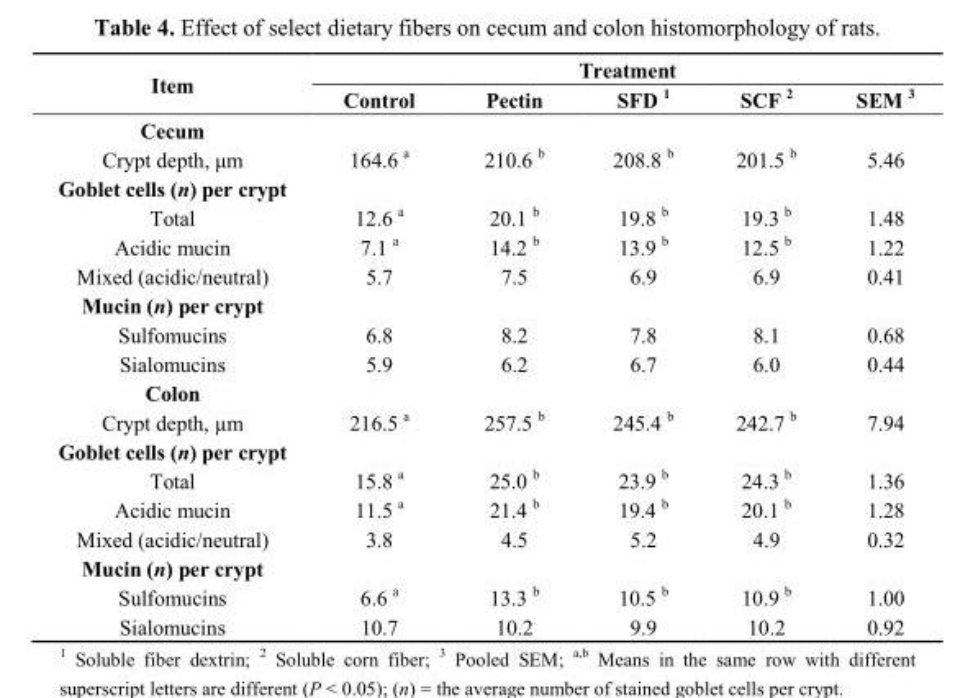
<table><thead><tr><td rowspan="2">Item</td><td colspan="5">Treatment</td></tr><tr><td>Control</td><td>Pectin</td><td>SFD <sup>1</sup></td><td>SCF <sup>2</sup></td><td>SEM <sup>3</sup></td></tr></thead><tbody><tr><td colspan="6">Cecum</td></tr><tr><td>Crypt depth, μm</td><td>164.6 <sup>a</sup></td><td>210.6 <sup>b</sup></td><td>208.8 <sup>b</sup></td><td>201.5 <sup>b</sup></td><td>5.46</td></tr><tr><td colspan="6">Goblet cells (n) per crypt</td></tr><tr><td>Total</td><td>12.6 <sup>a</sup></td><td>20.1 <sup>b</sup></td><td>19.8 <sup>b</sup></td><td>19.3 <sup>b</sup></td><td>1.48</td></tr><tr><td>Acidic mucin</td><td>7.1 <sup>a</sup></td><td>14.2 <sup>b</sup></td><td>13.9 <sup>b</sup></td><td>12.5 <sup>b</sup></td><td>1.22</td></tr><tr><td>Mixed (acidic/neutral)</td><td>5.7</td><td>7.5</td><td>6.9</td><td>6.9</td><td>0.41</td></tr><tr><td colspan="6">Mucin (n) per crypt</td></tr><tr><td>Sulfomucins</td><td>6.8</td><td>8.2</td><td>7.8</td><td>8.1</td><td>0.68</td></tr><tr><td>Sialomucins</td><td>5.9</td><td>6.2</td><td>6.7</td><td>6.0</td><td>0.44</td></tr><tr><td colspan="6">Colon</td></tr><tr><td>Crypt depth, µm</td><td>216.5 <sup>a</sup></td><td>257.5 <sup>b</sup></td><td>245.4 <sup>b</sup></td><td>242.7 <sup>b</sup></td><td>7.94</td></tr><tr><td colspan="6">Goblet cells (n) per crypt</td></tr><tr><td>Total</td><td>15.8 <sup>a</sup></td><td>25.0 <sup>b</sup></td><td>23.9 <sup>b</sup></td><td>24.3 <sup>b</sup></td><td>1.36</td></tr><tr><td>Acidic mucin</td><td>11.5 <sup>a</sup></td><td>21.4 <sup>b</sup></td><td>19.4 <sup>b</sup></td><td>20.1 <sup>b</sup></td><td>1.28</td></tr><tr><td>Mixed (acidic/neutral)</td><td>3.8</td><td>4.5</td><td>5.2</td><td>4.9</td><td>0.32</td></tr><tr><td colspan="6">Mucin (n) per crypt</td></tr><tr><td>Sulfomucins</td><td>6.6 <sup>a</sup></td><td>13.3 <sup>b</sup></td><td>10.5 <sup>b</sup></td><td>10.9 <sup>b</sup></td><td>1.00</td></tr><tr><td>Sialomucins</td><td>10.7</td><td>10.2</td><td>9.9</td><td>10.2</td><td>0.92</td></tr></tbody></table>